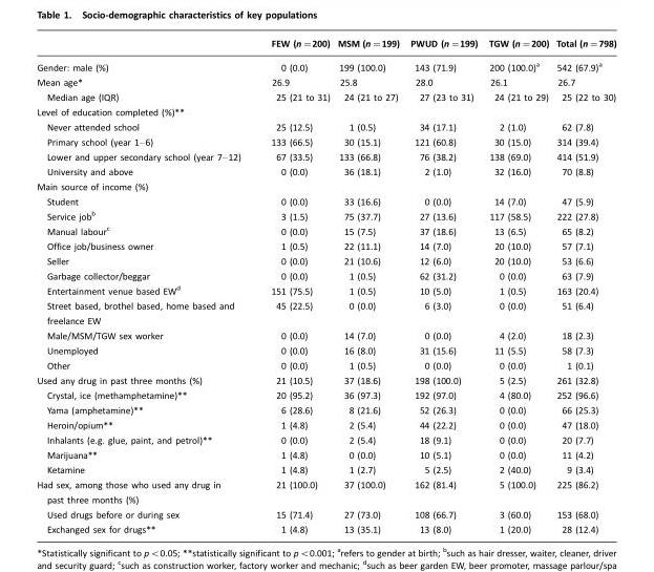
<table><thead><tr><td></td><td>FEW (n=200)</td><td>MSM (n=199)</td><td>PWUD (n=199)</td><td>TGW (n=200)</td><td>Total (n=798)</td></tr></thead><tbody><tr><td>Gender: male (%)</td><td>0 (0.0)</td><td>199 (100.0)</td><td>143 (71.9)</td><td>200 (100.0)<sup>a</sup></td><td>542 (67.9)<sup>a</sup></td></tr><tr><td>Mean age*</td><td>26.9</td><td>25.8</td><td>28.0</td><td>26.1</td><td>26.7</td></tr><tr><td>Median age (IQR)</td><td>25 (21 to 31)</td><td>24 (21 to 27)</td><td>27 (23 to 31)</td><td>24 (21 to 29)</td><td>25 (22 to 30)</td></tr><tr><td colspan="6">Level of education completed (%)**</td></tr><tr><td>Never attended school</td><td>25 (12.5)</td><td>1 (0.5)</td><td>34 (17.1)</td><td>2 (1.0)</td><td>62 (7.8)</td></tr><tr><td>Primary school (year 1–6)</td><td>133 (66.5)</td><td>30 (15.1)</td><td>121 (60.8)</td><td>30 (15.0)</td><td>314 (39.4)</td></tr><tr><td>Lower and upper secondary school (year 7–12)</td><td>67 (33.5)</td><td>133 (66.8)</td><td>76 (38.2)</td><td>138 (69.0)</td><td>414 (51.9)</td></tr><tr><td>University and above</td><td>0 (0.0)</td><td>36 (18.1)</td><td>2 (1.0)</td><td>32 (16.0)</td><td>70 (8.8)</td></tr><tr><td colspan="6">Main source of income (%)</td></tr><tr><td>Student</td><td>0 (0.0)</td><td>33 (16.6)</td><td>0 (0.0)</td><td>14 (7.0)</td><td>47 (5.9)</td></tr><tr><td>Service job<sup>b</sup></td><td>3 (1.5)</td><td>75 (37.7)</td><td>27 (13.6)</td><td>117 (58.5)</td><td>222 (27.8)</td></tr><tr><td>Manual labour<sup>c</sup></td><td>0 (0.0)</td><td>15 (7.5)</td><td>37 (18.6)</td><td>13 (6.5)</td><td>65 (8.2)</td></tr><tr><td>Office job/business owner</td><td>1 (0.5)</td><td>22 (11.1)</td><td>14 (7.0)</td><td>20 (10.0)</td><td>57 (7.1)</td></tr><tr><td>Seller</td><td>0 (0.0)</td><td>21 (10.6)</td><td>12 (6.0)</td><td>20 (10.0)</td><td>53 (6.6)</td></tr><tr><td>Garbage collector/beggar</td><td>0 (0.0)</td><td>1 (0.5)</td><td>62 (31.2)</td><td>0 (0.0)</td><td>63 (7.9)</td></tr><tr><td>Entertainment venue based EW<sup>d</sup></td><td>151 (75.5)</td><td>1 (0.5)</td><td>10 (5.0)</td><td>1 (0.5)</td><td>163 (20.4)</td></tr><tr><td>Street based, brothel based, home based and freelance EW</td><td>45 (22.5)</td><td>0 (0.0)</td><td>6 (3.0)</td><td>0 (0.0)</td><td>51 (6.4)</td></tr><tr><td>Male/MSM/TGW sex worker</td><td>0 (0.0)</td><td>14 (7.0)</td><td>0 (0.0)</td><td>4 (2.0)</td><td>18 (2.3)</td></tr><tr><td>Unemployed</td><td>0 (0.0)</td><td>16 (8.0)</td><td>31 (15.6)</td><td>11 (5.5)</td><td>58 (7.3)</td></tr><tr><td>Other</td><td>0 (0.0)</td><td>1 (0.5)</td><td>0 (0.0)</td><td>0 (0.0)</td><td>1 (0.1)</td></tr><tr><td>Used any drug in past three months (%)</td><td>21 (10.5)</td><td>37 (18.6)</td><td>198 (100.0)</td><td>5 (2.5)</td><td>261 (32.8)</td></tr><tr><td>Crystal, ice (methamphetamine)**</td><td>20 (95.2)</td><td>36 (97.3)</td><td>192 (97.0)</td><td>4 (80.0)</td><td>252 (96.6)</td></tr><tr><td>Yama (amphetamine)**</td><td>6 (28.6)</td><td>8 (21.6)</td><td>52 (26.3)</td><td>0 (0.0)</td><td>66 (25.3)</td></tr><tr><td>Heroin/opium**</td><td>1 (4.8)</td><td>2 (5.4)</td><td>44 (22.2)</td><td>0 (0.0)</td><td>47 (18.0)</td></tr><tr><td>Inhalants (e.g. glue, paint, and petrol)**</td><td>0 (0.0)</td><td>2 (5.4)</td><td>18 (9.1)</td><td>0 (0.0)</td><td>20 (7.7)</td></tr><tr><td>Marijuana**</td><td>1 (4.8)</td><td>0 (0.0)</td><td>10 (5.1)</td><td>0 (0.0)</td><td>11 (4.2)</td></tr><tr><td>Ketamine</td><td>1 (4.8)</td><td>1 (2.7)</td><td>5 (2.5)</td><td>2 (40.0)</td><td>9 (3.4)</td></tr><tr><td>Had sex, among those who used any drug in past three months (%)</td><td>21 (100.0)</td><td>37 (100.0)</td><td>162 (81.4)</td><td>5 (100.0)</td><td>225 (86.2)</td></tr><tr><td>Used drugs before or during sex</td><td>15 (71.4)</td><td>27 (73.0)</td><td>108 (66.7)</td><td>3 (60.0)</td><td>153 (68.0)</td></tr><tr><td>Exchanged sex for drugs**</td><td>1 (4.8)</td><td>13 (35.1)</td><td>13 (8.0)</td><td>1 (20.0)</td><td>28 (12.4)</td></tr></tbody></table>